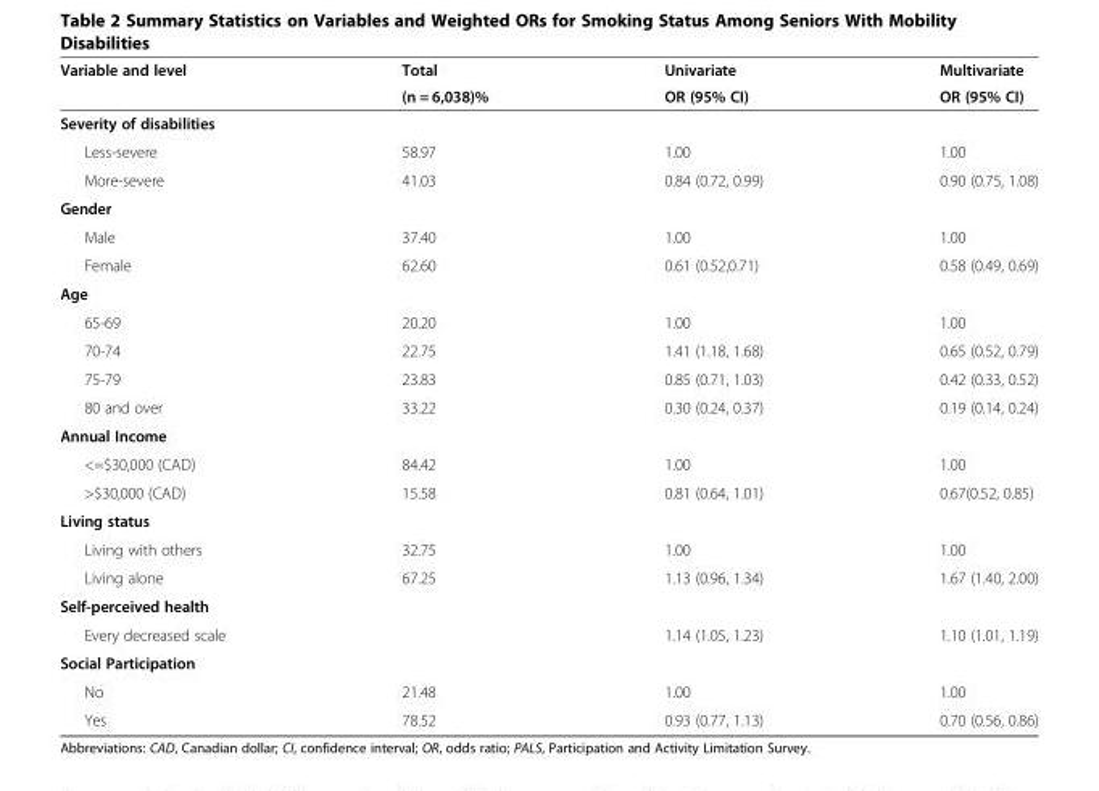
<table><thead><tr><td rowspan="2">Variable and level</td><td rowspan="2">Total (n = 6,038)%</td><td rowspan="2">Univariate OR (95% CI)</td><td rowspan="2">Multivariate OR (95% CI)</td></tr><tr></tr></thead><tbody><tr><td colspan="4">Severity of disabilities</td></tr><tr><td>Less-severe</td><td>58.97</td><td>1.00</td><td>1.00</td></tr><tr><td>More-severe</td><td>41.03</td><td>0.84 (0.72, 0.99)</td><td>0.90 (0.75, 1.08)</td></tr><tr><td colspan="4">Gender</td></tr><tr><td>Male</td><td>37.40</td><td>1.00</td><td>1.00</td></tr><tr><td>Female</td><td>62.60</td><td>0.61 (0.52,0.71)</td><td>0.58 (0.49, 0.69)</td></tr><tr><td colspan="4">Age</td></tr><tr><td>65-69</td><td>20.20</td><td>1.00</td><td>1.00</td></tr><tr><td>70-74</td><td>22.75</td><td>1.41 (1.18, 1.68)</td><td>0.65 (0.52, 0.79)</td></tr><tr><td>75-79</td><td>23.83</td><td>0.85 (0.71, 1.03)</td><td>0.42 (0.33, 0.52)</td></tr><tr><td>80 and over</td><td>33.22</td><td>0.30 (0.24, 0.37)</td><td>0.19 (0.14, 0.24)</td></tr><tr><td colspan="4">Annual Income</td></tr><tr><td>&lt;=$30,000 (CAD)</td><td>84.42</td><td>1.00</td><td>1.00</td></tr><tr><td>&gt;$30,000 (CAD)</td><td>15.58</td><td>0.81 (0.64, 1.01)</td><td>0.67(0.52, 0.85)</td></tr><tr><td colspan="4">Living status</td></tr><tr><td>Living with others</td><td>32.75</td><td>1.00</td><td>1.00</td></tr><tr><td>Living alone</td><td>67.25</td><td>1.13 (0.96, 1.34)</td><td>1.67 (1.40, 2.00)</td></tr><tr><td colspan="4">Self-perceived health</td></tr><tr><td>Every decreased scale</td><td></td><td>1.14 (1.05, 1.23)</td><td>1.10 (1.01, 1.19)</td></tr><tr><td colspan="4">Social Participation</td></tr><tr><td>No</td><td>21.48</td><td>1.00</td><td>1.00</td></tr><tr><td>Yes</td><td>78.52</td><td>0.93 (0.77, 1.13)</td><td>0.70 (0.56, 0.86)</td></tr></tbody></table>